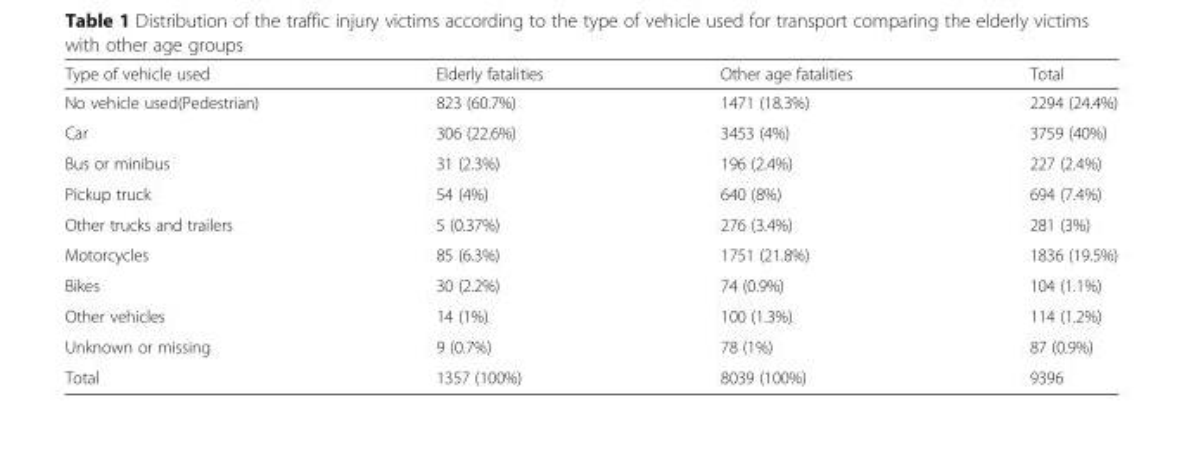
<table><thead><tr><td>Type of vehicle used</td><td>Elderly fatalities</td><td>Other age fatalities</td><td>Total</td></tr></thead><tbody><tr><td>No vehicle used(Pedestrian)</td><td>823 (60.7%)</td><td>1471 (18.3%)</td><td>2294 (24.4%)</td></tr><tr><td>Car</td><td>306 (22.6%)</td><td>3453 (4%)</td><td>3759 (40%)</td></tr><tr><td>Bus or minibus</td><td>31 (2.3%)</td><td>196 (2.4%)</td><td>227 (2.4%)</td></tr><tr><td>Pickup truck</td><td>54 (4%)</td><td>640 (8%)</td><td>694 (7.4%)</td></tr><tr><td>Other trucks and trailers</td><td>5 (0.37%)</td><td>276 (3.4%)</td><td>281 (3%)</td></tr><tr><td>Motorcycles</td><td>85 (6.3%)</td><td>1751 (21.8%)</td><td>1836 (19.5%)</td></tr><tr><td>Bikes</td><td>30 (2.2%)</td><td>74 (0.9%)</td><td>104 (1.1%)</td></tr><tr><td>Other vehicles</td><td>14 (1%)</td><td>100 (1.3%)</td><td>114 (1.2%)</td></tr><tr><td>Unknown or missing</td><td>9 (0.7%)</td><td>78 (1%)</td><td>87 (0.9%)</td></tr><tr><td>Total</td><td>1357 (100%)</td><td>8039 (100%)</td><td>9396</td></tr></tbody></table>